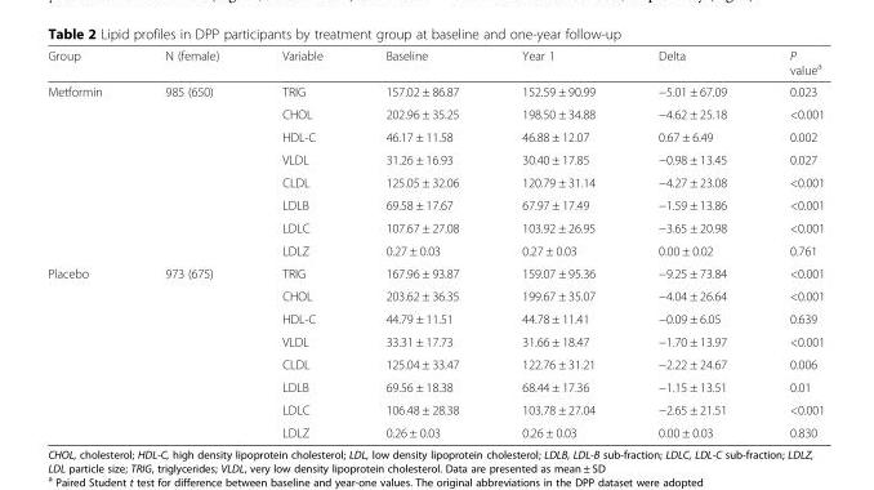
<table><thead><tr><td>Group</td><td>N (female)</td><td>Variable</td><td>Baseline</td><td>Year 1</td><td>Delta</td><td>P value<sup>a</sup></td></tr></thead><tbody><tr><td rowspan="8">Metformin</td><td rowspan="8">985 (650)</td><td>TRIG</td><td>157.02 ± 86.87</td><td>152.59 ± 90.99</td><td>−5.01 ± 67.09</td><td>0.023</td></tr><tr><td>CHOL</td><td>202.96 ± 35.25</td><td>198.50 ± 34.88</td><td>−4.62 ± 25.18</td><td>&lt;0.001</td></tr><tr><td>HDL-C</td><td>46.17 ± 11.58</td><td>46.88 ± 12.07</td><td>0.67 ± 6.49</td><td>0.002</td></tr><tr><td>VLDL</td><td>31.26 ± 16.93</td><td>30.40 ± 17.85</td><td>−0.98 ± 13.45</td><td>0.027</td></tr><tr><td>CLDL</td><td>125.05 ± 32.06</td><td>120.79 ± 31.14</td><td>−4.27 ± 23.08</td><td>&lt;0.001</td></tr><tr><td>LDLB</td><td>69.58 ± 17.67</td><td>67.97 ± 17.49</td><td>−1.59 ± 13.86</td><td>&lt;0.001</td></tr><tr><td>LDLC</td><td>107.67 ± 27.08</td><td>103.92 ± 26.95</td><td>−3.65 ± 20.98</td><td>&lt;0.001</td></tr><tr><td>LDLZ</td><td>0.27 ± 0.03</td><td>0.27 ± 0.03</td><td>0.00 ± 0.02</td><td>0.761</td></tr><tr><td rowspan="8">Placebo</td><td rowspan="8">973 (675)</td><td>TRIG</td><td>167.96 ± 93.87</td><td>159.07 ± 95.36</td><td>−9.25 ± 73.84</td><td>&lt;0.001</td></tr><tr><td>CHOL</td><td>203.62 ± 36.35</td><td>199.67 ± 35.07</td><td>−4.04 ± 26.64</td><td>&lt;0.001</td></tr><tr><td>HDL-C</td><td>44.79 ± 11.51</td><td>44.78 ± 11.41</td><td>−0.09 ± 6.05</td><td>0.639</td></tr><tr><td>VLDL</td><td>33.31 ± 17.73</td><td>31.66 ± 18.47</td><td>−1.70 ± 13.97</td><td>&lt;0.001</td></tr><tr><td>CLDL</td><td>125.04 ± 33.47</td><td>122.76 ± 31.21</td><td>−2.22 ± 24.67</td><td>0.006</td></tr><tr><td>LDLB</td><td>69.56 ± 18.38</td><td>68.44 ± 17.36</td><td>−1.15 ± 13.51</td><td>0.01</td></tr><tr><td>LDLC</td><td>106.48 ± 28.38</td><td>103.78 ± 27.04</td><td>−2.65 ± 21.51</td><td>&lt;0.001</td></tr><tr><td>LDLZ</td><td>0.26 ± 0.03</td><td>0.26 ± 0.03</td><td>0.00 ± 0.03</td><td>0.830</td></tr></tbody></table>